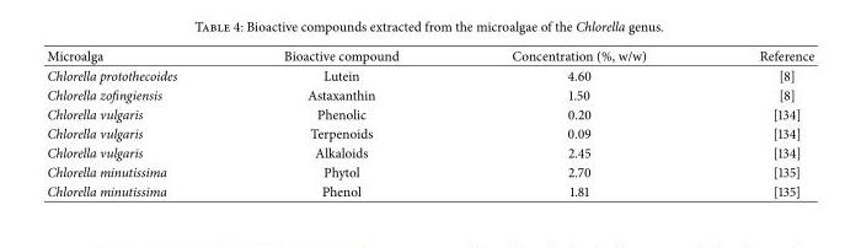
<table><tbody><tr><td>Microalga</td><td>Bioactive compound</td><td>Concentration (%, w/w)</td><td>Reference</td></tr><tr><td>Chlorella protothecoides</td><td>Lutein</td><td>4.60</td><td>[8]</td></tr><tr><td>Chlorella zofingiensis</td><td>Astaxanthin</td><td>1.50</td><td>[8]</td></tr><tr><td>Chlorella vulgaris</td><td>Phenolic</td><td>0.20</td><td>[134]</td></tr><tr><td>Chlorella vulgaris</td><td>Terpenoids</td><td>0.09</td><td>[134]</td></tr><tr><td>Chlorella vulgaris</td><td>Alkaloids</td><td>2.45</td><td>[134]</td></tr><tr><td>Chlorella minutissima</td><td>Phytol</td><td>2.70</td><td>[135]</td></tr><tr><td>Chlorella minutissima</td><td>Phenol</td><td>1.81</td><td>[135]</td></tr></tbody></table>